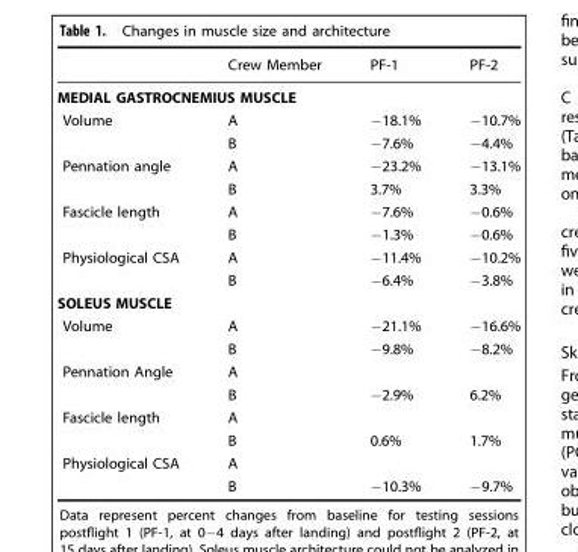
<table><thead><tr><td></td><td>Crew Member</td><td>PF-1</td><td>PF-2</td></tr></thead><tbody><tr><td colspan="4">MEDIAL GASTROCNEMIUS MUSCLE</td></tr><tr><td rowspan="2">Volume</td><td>A</td><td>−18.1%</td><td>−10.7%</td></tr><tr><td>B</td><td>−7.6%</td><td>−4.4%</td></tr><tr><td rowspan="2">Pennation angle</td><td>A</td><td>−23.2%</td><td>−13.1%</td></tr><tr><td>B</td><td>3.7%</td><td>3.3%</td></tr><tr><td rowspan="2">Fascicle length</td><td>A</td><td>−7.6%</td><td>−0.6%</td></tr><tr><td>B</td><td>−1.3%</td><td>−0.6%</td></tr><tr><td rowspan="2">Physiological CSA</td><td>A</td><td>−11.4%</td><td>−10.2%</td></tr><tr><td>B</td><td>−6.4%</td><td>−3.8%</td></tr><tr><td colspan="4">SOLEUS MUSCLE</td></tr><tr><td rowspan="2">Volume</td><td>A</td><td>−21.1%</td><td>−16.6%</td></tr><tr><td>B</td><td>−9.8%</td><td>−8.2%</td></tr><tr><td rowspan="2">Pennation Angle</td><td>A</td><td></td><td></td></tr><tr><td>B</td><td>−2.9%</td><td>6.2%</td></tr><tr><td rowspan="2">Fascicle length</td><td>A</td><td></td><td></td></tr><tr><td>B</td><td>0.6%</td><td>1.7%</td></tr><tr><td rowspan="2">Physiological CSA</td><td>A</td><td></td><td></td></tr><tr><td>B</td><td>−10.3%</td><td>−9.7%</td></tr></tbody></table>